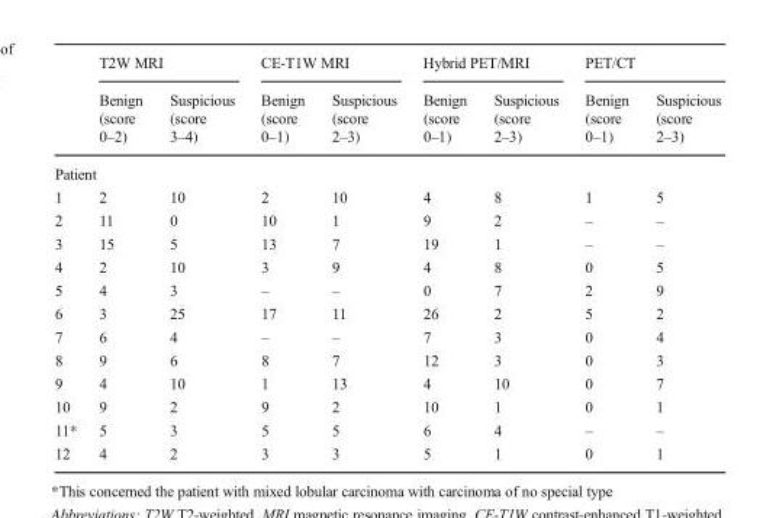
<table><thead><tr><td rowspan="2"></td><td colspan="2">T2W MRI</td><td colspan="2">CE-T1W MRI</td><td colspan="2">Hybrid PET/MRI</td><td colspan="2">PET/CT</td></tr><tr><td>Benign (score 0–2)</td><td>Suspicious (score 3–4)</td><td>Benign (score 0–1)</td><td>Suspicious (score 2–3)</td><td>Benign (score 0–1)</td><td>Suspicious (score 2–3)</td><td>Benign (score 0–1)</td><td>Suspicious (score 2–3)</td></tr></thead><tbody><tr><td colspan="9">Patient</td></tr><tr><td>1</td><td>2</td><td>10</td><td>2</td><td>10</td><td>4</td><td>8</td><td>1</td><td>5</td></tr><tr><td>2</td><td>11</td><td>0</td><td>10</td><td>1</td><td>9</td><td>2</td><td>–</td><td>–</td></tr><tr><td>3</td><td>15</td><td>5</td><td>13</td><td>7</td><td>19</td><td>1</td><td>–</td><td>–</td></tr><tr><td>4</td><td>2</td><td>10</td><td>3</td><td>9</td><td>4</td><td>8</td><td>0</td><td>5</td></tr><tr><td>5</td><td>4</td><td>3</td><td>–</td><td>–</td><td>0</td><td>7</td><td>2</td><td>9</td></tr><tr><td>6</td><td>3</td><td>25</td><td>17</td><td>11</td><td>26</td><td>2</td><td>5</td><td>2</td></tr><tr><td>7</td><td>6</td><td>4</td><td>–</td><td>–</td><td>7</td><td>3</td><td>0</td><td>4</td></tr><tr><td>8</td><td>9</td><td>6</td><td>8</td><td>7</td><td>12</td><td>3</td><td>0</td><td>3</td></tr><tr><td>9</td><td>4</td><td>10</td><td>1</td><td>13</td><td>4</td><td>10</td><td>0</td><td>7</td></tr><tr><td>10</td><td>9</td><td>2</td><td>9</td><td>2</td><td>10</td><td>1</td><td>0</td><td>1</td></tr><tr><td>11*</td><td>5</td><td>3</td><td>5</td><td>5</td><td>6</td><td>4</td><td>–</td><td>–</td></tr><tr><td>12</td><td>4</td><td>2</td><td>3</td><td>3</td><td>5</td><td>1</td><td>0</td><td>1</td></tr></tbody></table>